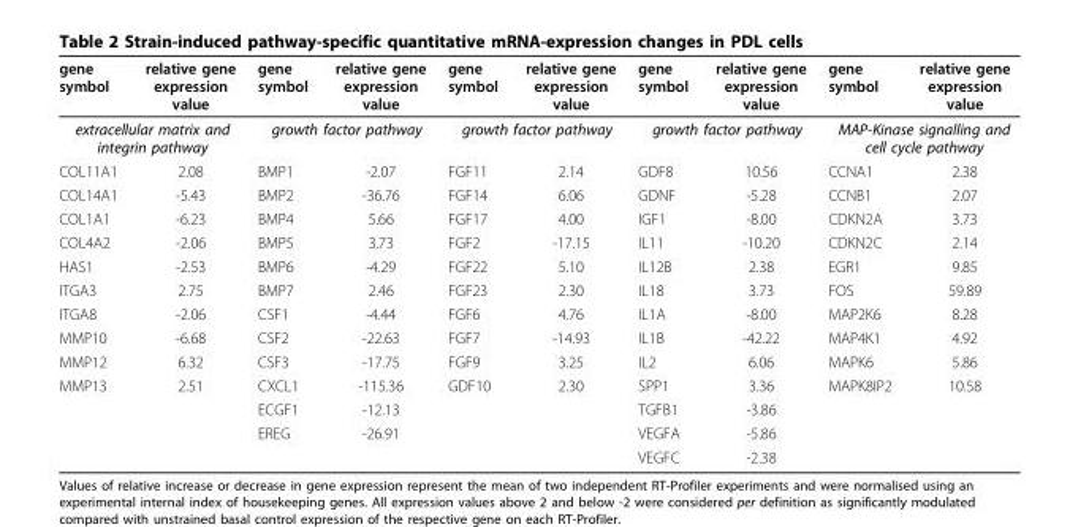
<table><thead><tr><td>gene symbol</td><td>relative gene expression value</td><td>gene symbol</td><td>relative gene expression value</td><td>gene symbol</td><td>relative gene expression value</td><td>gene symbol</td><td>relative gene expression value</td><td>gene symbol</td><td>relative gene expression value</td></tr></thead><tbody><tr><td colspan="2">extracellular matrix and integrin pathway</td><td colspan="2">growth factor pathway</td><td colspan="2">growth factor pathway</td><td colspan="2">growth factor pathway</td><td colspan="2">MAP-Kinase signalling and cell cycle pathway</td></tr><tr><td>COL11A1</td><td>2.08</td><td>BMP1</td><td>-2.07</td><td>FGF11</td><td>2.14</td><td>GDF8</td><td>10.56</td><td>CCNA1</td><td>2.38</td></tr><tr><td>COL14A1</td><td>-5.43</td><td>BMP2</td><td>-36.76</td><td>FGF14</td><td>6.06</td><td>GDNF</td><td>-5.28</td><td>CCNB1</td><td>2.07</td></tr><tr><td>COL1A1</td><td>-6.23</td><td>BMP4</td><td>5.66</td><td>FGF17</td><td>4.00</td><td>IGF1</td><td>-8.00</td><td>CDKN2A</td><td>3.73</td></tr><tr><td>COL4A2</td><td>-2.06</td><td>BMP5</td><td>3.73</td><td>FGF2</td><td>-17.15</td><td>IL11</td><td>-10.20</td><td>CDKN2C</td><td>2.14</td></tr><tr><td>HAS1</td><td>-2.53</td><td>BMP6</td><td>-4.29</td><td>FGF22</td><td>5.10</td><td>IL12B</td><td>2.38</td><td>EGR1</td><td>9.85</td></tr><tr><td>ITGA3</td><td>2.75</td><td>BMP7</td><td>2.46</td><td>FGF23</td><td>2.30</td><td>IL18</td><td>3.73</td><td>FOS</td><td>59.89</td></tr><tr><td>ITGA8</td><td>-2.06</td><td>CSF1</td><td>-4.44</td><td>FGF6</td><td>4.76</td><td>IL1A</td><td>-8.00</td><td>MAP2K6</td><td>8.28</td></tr><tr><td>MMP10</td><td>-6.68</td><td>CSF2</td><td>-22.63</td><td>FGF7</td><td>-14.93</td><td>IL1B</td><td>-42.22</td><td>MAP4K1</td><td>4.92</td></tr><tr><td>MMP12</td><td>6.32</td><td>CSF3</td><td>-17.75</td><td>FGF9</td><td>3.25</td><td>IL2</td><td>6.06</td><td>MAPK6</td><td>5.86</td></tr><tr><td rowspan="4">MMP13</td><td>2.51</td><td>CXCL1</td><td>-115.36</td><td>GDF10</td><td>2.30</td><td>SPP1</td><td>3.36</td><td>MAPK8IP2</td><td>10.58</td></tr><tr><td></td><td>ECGF1</td><td>-12.13</td><td></td><td></td><td>TGFB1</td><td>-3.86</td><td></td><td></td></tr><tr><td></td><td>EREG</td><td>-26.91</td><td></td><td></td><td>VEGFA</td><td>-5.86</td><td></td><td></td></tr><tr><td></td><td></td><td></td><td></td><td></td><td>VEGFC</td><td>-2.38</td><td></td><td></td></tr></tbody></table>